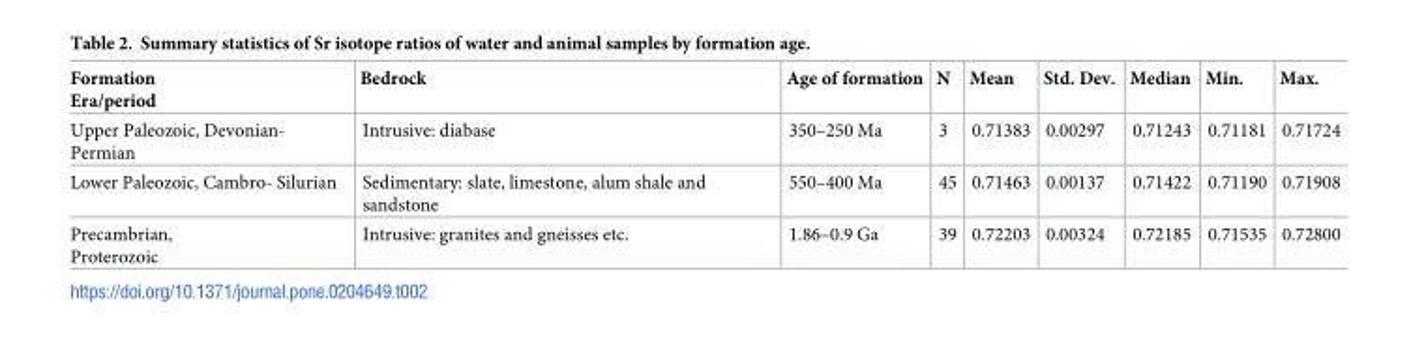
<table><thead><tr><td>Formation Era/period</td><td>Bedrock</td><td>Age of formation</td><td>N</td><td>Mean</td><td>Std. Dev.</td><td>Median</td><td>Min.</td><td>Max.</td></tr></thead><tbody><tr><td>Upper Paleozoic, Devonian- Permian</td><td>Intrusive: diabase</td><td>350–250 Ma</td><td>3</td><td>0.71383</td><td>0.00297</td><td>0.71243</td><td>0.71181</td><td>0.71724</td></tr><tr><td>Lower Paleozoic, Cambro- Silurian</td><td>Sedimentary: slate, limestone, alum shale and sandstone</td><td>550–400 Ma</td><td>45</td><td>0.71463</td><td>0.00137</td><td>0.71422</td><td>0.71190</td><td>0.71908</td></tr><tr><td>Precambrian, Proterozoic</td><td>Intrusive: granites and gneisses etc.</td><td>1.86–0.9 Ga</td><td>39</td><td>0.72203</td><td>0.00324</td><td>0.72185</td><td>0.71535</td><td>0.72800</td></tr></tbody></table>